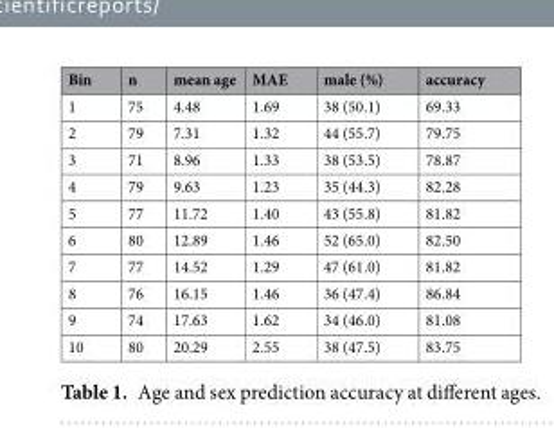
<table><thead><tr><td>Bin</td><td>n</td><td>mean age</td><td>MAE</td><td>male (%)</td><td>accuracy</td></tr></thead><tbody><tr><td>1</td><td>75</td><td>4.48</td><td>1.69</td><td>38 (50.1)</td><td>69.33</td></tr><tr><td>2</td><td>79</td><td>7.31</td><td>1.32</td><td>44 (55.7)</td><td>79.75</td></tr><tr><td>3</td><td>71</td><td>8.96</td><td>1.33</td><td>38 (53.5)</td><td>78.87</td></tr><tr><td>4</td><td>79</td><td>9.63</td><td>1.23</td><td>35 (44.3)</td><td>82.28</td></tr><tr><td>5</td><td>77</td><td>11.72</td><td>1.40</td><td>43 (55.8)</td><td>81.82</td></tr><tr><td>6</td><td>80</td><td>12.89</td><td>1.46</td><td>52 (65.0)</td><td>82.50</td></tr><tr><td>7</td><td>77</td><td>14.52</td><td>1.29</td><td>47 (61.0)</td><td>81.82</td></tr><tr><td>8</td><td>76</td><td>16.15</td><td>1.46</td><td>36 (47.4)</td><td>86.84</td></tr><tr><td>9</td><td>74</td><td>17.63</td><td>1.62</td><td>34 (46.0)</td><td>81.08</td></tr><tr><td>10</td><td>80</td><td>20.29</td><td>2.55</td><td>38 (47.5)</td><td>83.75</td></tr></tbody></table>